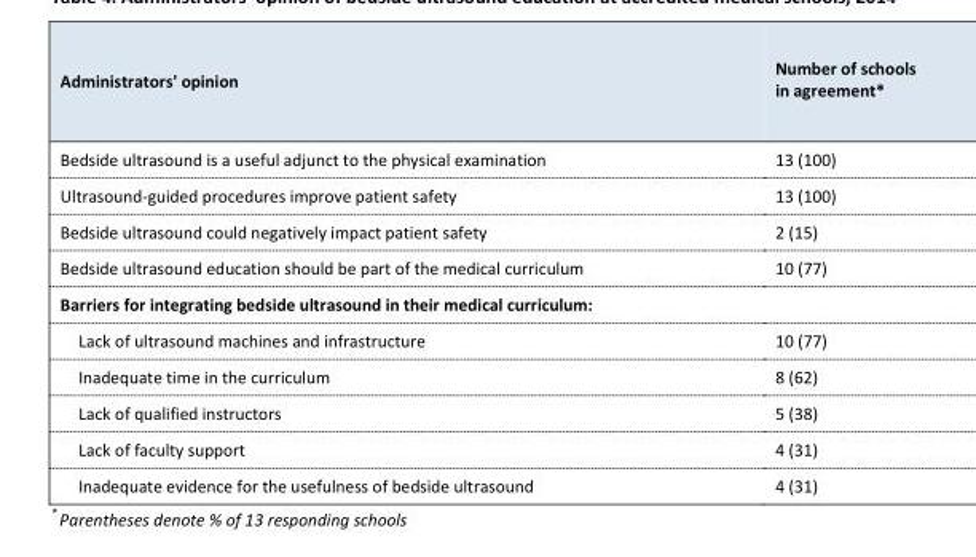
<table><thead><tr><td>Administrators&#x27; opinion</td><td>Number of schools in agreement*</td></tr></thead><tbody><tr><td>Bedside ultrasound is a useful adjunct to the physical examination</td><td>13 (100)</td></tr><tr><td>Ultrasound-guided procedures improve patient safety</td><td>13 (100)</td></tr><tr><td>Bedside ultrasound could negatively impact patient safety</td><td>2 (15)</td></tr><tr><td>Bedside ultrasound education should be part of the medical curriculum</td><td>10 (77)</td></tr><tr><td colspan="2">Barriers for integrating bedside ultrasound in their medical curriculum:</td></tr><tr><td>Lack of ultrasound machines and infrastructure</td><td>10 (77)</td></tr><tr><td>Inadequate time in the curriculum</td><td>8 (62)</td></tr><tr><td>Lack of qualified instructors</td><td>5 (38)</td></tr><tr><td>Lack of faculty support</td><td>4 (31)</td></tr><tr><td>Inadequate evidence for the usefulness of bedside ultrasound</td><td>4 (31)</td></tr></tbody></table>